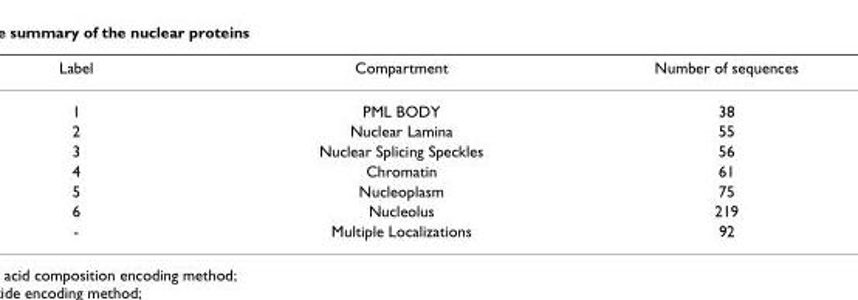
<table><thead><tr><td>Label</td><td>Compartment</td><td>Number of sequences</td></tr></thead><tbody><tr><td>1</td><td>PML BODY</td><td>38</td></tr><tr><td>2</td><td>Nuclear Lamina</td><td>55</td></tr><tr><td>3</td><td>Nuclear Splicing Speckles</td><td>56</td></tr><tr><td>4</td><td>Chromatin</td><td>61</td></tr><tr><td>5</td><td>Nucleoplasm</td><td>75</td></tr><tr><td>6</td><td>Nucleolus</td><td>219</td></tr><tr><td>-</td><td>Multiple Localizations</td><td>92</td></tr></tbody></table>